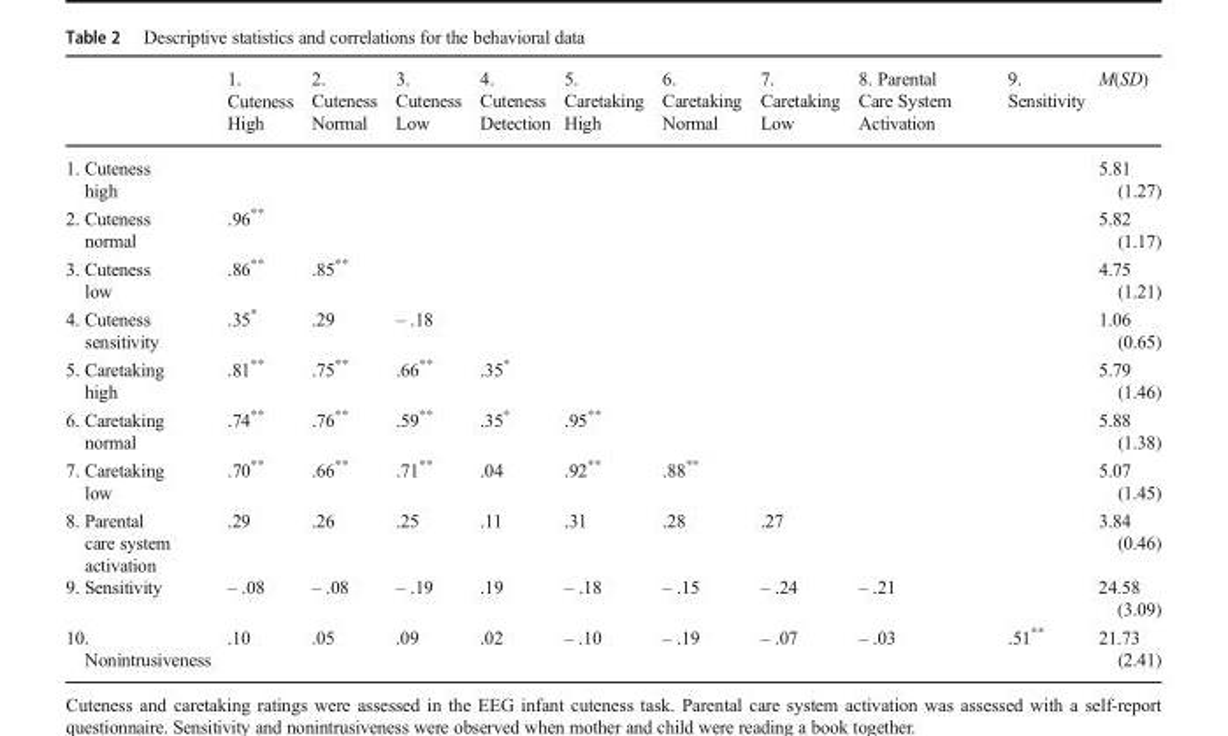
<table><thead><tr><td></td><td>1. Cuteness High</td><td>2. Cuteness Normal</td><td>3. Cuteness Low</td><td>4. Cuteness Detection</td><td>5. Caretaking High</td><td>6. Caretaking Normal</td><td>7. Caretaking Low</td><td>8. Parental Care System Activation</td><td>9. Sensitivity</td><td>M(SD)</td></tr></thead><tbody><tr><td>1. Cuteness high</td><td></td><td></td><td></td><td></td><td></td><td></td><td></td><td></td><td></td><td>5.81 (1.27)</td></tr><tr><td>2. Cuteness normal</td><td>.96**</td><td></td><td></td><td></td><td></td><td></td><td></td><td></td><td></td><td>5.82 (1.17)</td></tr><tr><td>3. Cuteness low</td><td>.86**</td><td>.85**</td><td></td><td></td><td></td><td></td><td></td><td></td><td></td><td>4.75 (1.21)</td></tr><tr><td>4. Cuteness sensitivity</td><td>.35*</td><td>.29</td><td>– .18</td><td></td><td></td><td></td><td></td><td></td><td></td><td>1.06 (0.65)</td></tr><tr><td>5. Caretaking high</td><td>.81**</td><td>.75**</td><td>.66**</td><td>.35*</td><td></td><td></td><td></td><td></td><td></td><td>5.79 (1.46)</td></tr><tr><td>6. Caretaking normal</td><td>.74**</td><td>.76**</td><td>.59**</td><td>.35*</td><td>.95**</td><td></td><td></td><td></td><td></td><td>5.88 (1.38)</td></tr><tr><td>7. Caretaking low</td><td>.70**</td><td>.66**</td><td>.71**</td><td>.04</td><td>.92**</td><td>.88**</td><td></td><td></td><td></td><td>5.07 (1.45)</td></tr><tr><td>8. Parental care system activation</td><td>.29</td><td>.26</td><td>.25</td><td>.11</td><td>.31</td><td>.28</td><td>.27</td><td></td><td></td><td>3.84 (0.46)</td></tr><tr><td>9. Sensitivity</td><td>– .08</td><td>– .08</td><td>– .19</td><td>.19</td><td>– .18</td><td>– .15</td><td>– .24</td><td>– .21</td><td></td><td>24.58 (3.09)</td></tr><tr><td>10. Nonintrusiveness</td><td>.10</td><td>.05</td><td>.09</td><td>.02</td><td>– .10</td><td>– .19</td><td>– .07</td><td>– .03</td><td>.51**</td><td>21.73 (2.41)</td></tr></tbody></table>